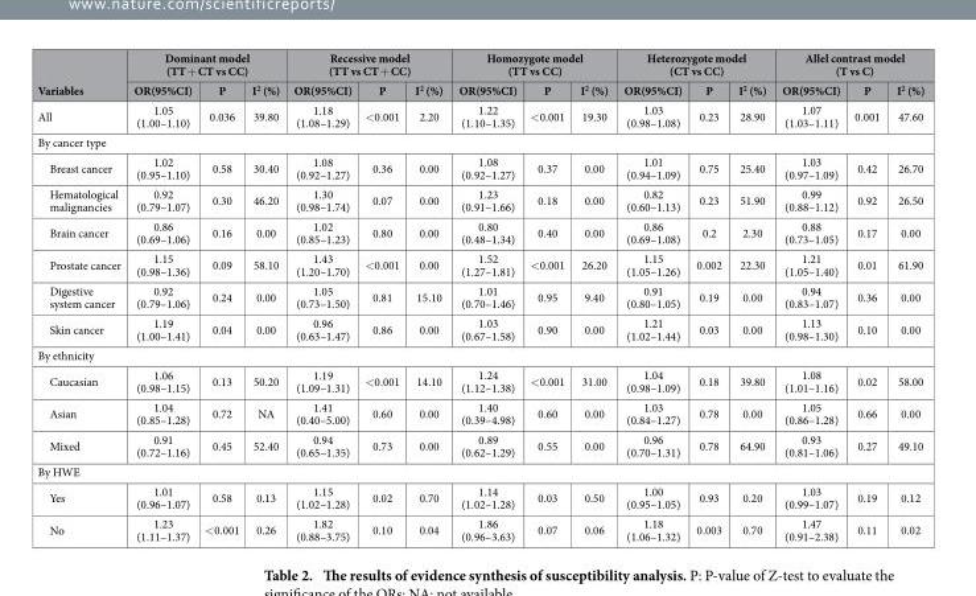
<table><thead><tr><td rowspan="2">Variables</td><td colspan="3">Dominant model (TT + CT vs CC)</td><td colspan="3">Recessive model (TT vs CT + CC)</td><td colspan="3">Homozygote model (TT vs CC)</td><td colspan="3">Heterozygote model (CT vs CC)</td><td colspan="3">Allel contrast model (T vs C)</td></tr><tr><td>OR(95%CI)</td><td>P</td><td>I<sup>2</sup> (%)</td><td>OR(95%CI)</td><td>P</td><td>I<sup>2</sup> (%)</td><td>OR(95%CI)</td><td>P</td><td>I<sup>2</sup> (%)</td><td>OR(95%CI)</td><td>P</td><td>I<sup>2</sup> (%)</td><td>OR(95%CI)</td><td>P</td><td>I<sup>2</sup> (%)</td></tr></thead><tbody><tr><td>All</td><td>1.05 (1.00–1.10)</td><td>0.036</td><td>39.80</td><td>1.18 (1.08–1.29)</td><td>&lt; 0.001</td><td>2.20</td><td>1.22 (1.10–1.35)</td><td>&lt; 0.001</td><td>19.30</td><td>1.03 (0.98–1.08)</td><td>0.23</td><td>28.90</td><td>1.07 (1.03–1.11)</td><td>0.001</td><td>47.60</td></tr><tr><td colspan="16">By cancer type</td></tr><tr><td>Breast cancer</td><td>1.02 (0.95–1.10)</td><td>0.58</td><td>30.40</td><td>1.08 (0.92–1.27)</td><td>0.36</td><td>0.00</td><td>1.08 (0.92–1.27)</td><td>0.37</td><td>0.00</td><td>1.01 (0.94–1.09)</td><td>0.75</td><td>25.40</td><td>1.03 (0.97–1.09)</td><td>0.42</td><td>26.70</td></tr><tr><td>Hematological malignancies</td><td>0.92 (0.79–1.07)</td><td>0.30</td><td>46.20</td><td>1.30 (0.98–1.74)</td><td>0.07</td><td>0.00</td><td>1.23 (0.91–1.66)</td><td>0.18</td><td>0.00</td><td>0.82 (0.60–1.13)</td><td>0.23</td><td>51.90</td><td>0.99 (0.88–1.12)</td><td>0.92</td><td>26.50</td></tr><tr><td>Brain cancer</td><td>0.86 (0.69–1.06)</td><td>0.16</td><td>0.00</td><td>1.02 (0.85–1.23)</td><td>0.80</td><td>0.00</td><td>0.80 (0.48–1.34)</td><td>0.40</td><td>0.00</td><td>0.86 (0.69–1.08)</td><td>0.2</td><td>2.30</td><td>0.88 (0.73–1.05)</td><td>0.17</td><td>0.00</td></tr><tr><td>Prostate cancer</td><td>1.15 (0.98–1.36)</td><td>0.09</td><td>58.10</td><td>1.43 (1.20–1.70)</td><td>&lt; 0.001</td><td>0.00</td><td>1.52 (1.27–1.81)</td><td>&lt; 0.001</td><td>26.20</td><td>1.15 (1.05–1.26)</td><td>0.002</td><td>22.30</td><td>1.21 (1.05–1.40)</td><td>0.01</td><td>61.90</td></tr><tr><td>Digestive system cancer</td><td>0.92 (0.79–1.06)</td><td>0.24</td><td>0.00</td><td>1.05 (0.73–1.50)</td><td>0.81</td><td>15.10</td><td>1.01 (0.70–1.46)</td><td>0.95</td><td>9.40</td><td>0.91 (0.80–1.05)</td><td>0.19</td><td>0.00</td><td>0.94 (0.83–1.07)</td><td>0.36</td><td>0.00</td></tr><tr><td>Skin cancer</td><td>1.19 (1.00–1.41)</td><td>0.04</td><td>0.00</td><td>0.96 (0.63–1.47)</td><td>0.86</td><td>0.00</td><td>1.03 (0.67–1.58)</td><td>0.90</td><td>0.00</td><td>1.21 (1.02–1.44)</td><td>0.03</td><td>0.00</td><td>1.13 (0.98–1.30)</td><td>0.10</td><td>0.00</td></tr><tr><td colspan="16">By ethnicity</td></tr><tr><td>Caucasian</td><td>1.06 (0.98–1.15)</td><td>0.13</td><td>50.20</td><td>1.19 (1.09–1.31)</td><td>&lt;0.001</td><td>14.10</td><td>1.24 (1.12–1.38)</td><td>&lt; 0.001</td><td>31.00</td><td>1.04 (0.98–1.09)</td><td>0.18</td><td>39.80</td><td>1.08 (1.01–1.16)</td><td>0.02</td><td>58.00</td></tr><tr><td>Asian</td><td>1.04 (0.85–1.28)</td><td>0.72</td><td>NA</td><td>1.41 (0.40–5.00)</td><td>0.60</td><td>0.00</td><td>1.40 (0.39–4.98)</td><td>0.60</td><td>0.00</td><td>1.03 (0.84–1.27)</td><td>0.78</td><td>0.00</td><td>1.05 (0.86–1.28)</td><td>0.66</td><td>0.00</td></tr><tr><td>Mixed</td><td>0.91 (0.72–1.16)</td><td>0.45</td><td>52.40</td><td>0.94 (0.65–1.35)</td><td>0.73</td><td>0.00</td><td>0.89 (0.62–1.29)</td><td>0.55</td><td>0.00</td><td>0.96 (0.70–1.31)</td><td>0.78</td><td>64.90</td><td>0.93 (0.81–1.06)</td><td>0.27</td><td>49.10</td></tr><tr><td colspan="16">By HWE</td></tr><tr><td>Yes</td><td>1.01 (0.96–1.07)</td><td>0.58</td><td>0.13</td><td>1.15 (1.02–1.28)</td><td>0.02</td><td>0.70</td><td>1.14 (1.02–1.28)</td><td>0.03</td><td>0.50</td><td>1.00 (0.95–1.05)</td><td>0.93</td><td>0.20</td><td>1.03 (0.99–1.07)</td><td>0.19</td><td>0.12</td></tr><tr><td>No</td><td>1.23 (1.11–1.37)</td><td>&lt; 0.001</td><td>0.26</td><td>1.82 (0.88–3.75)</td><td>0.10</td><td>0.04</td><td>1.86 (0.96–3.63)</td><td>0.07</td><td>0.06</td><td>1.18 (1.06–1.32)</td><td>0.003</td><td>0.70</td><td>1.47 (0.91–2.38)</td><td>0.11</td><td>0.02</td></tr></tbody></table>